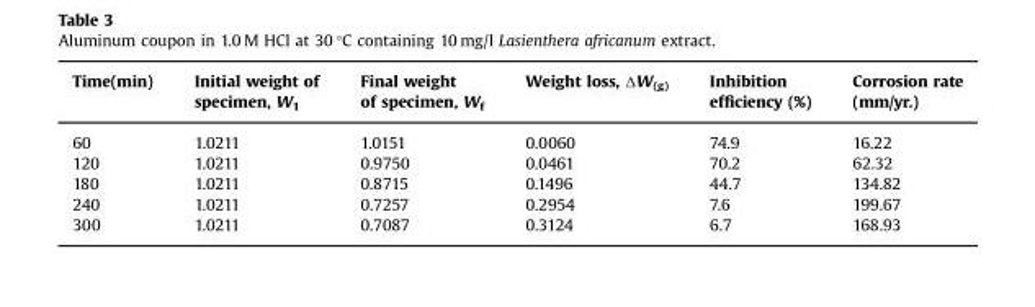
<table><thead><tr><td>Time(min)</td><td>Initial weight of specimen, W<sub>1</sub></td><td>Final weight of specimen, W<sub>f</sub></td><td>Weight loss, ΔW(g)</td><td>Inhibition efficiency (%)</td><td>Corrosion rate (mm/yr.)</td></tr></thead><tbody><tr><td>60</td><td>1.0211</td><td>1.0151</td><td>0.0060</td><td>74.9</td><td>16.22</td></tr><tr><td>120</td><td>1.0211</td><td>0.9750</td><td>0.0461</td><td>70.2</td><td>62.32</td></tr><tr><td>180</td><td>1.0211</td><td>0.8715</td><td>0.1496</td><td>44.7</td><td>134.82</td></tr><tr><td>240</td><td>1.0211</td><td>0.7257</td><td>0.2954</td><td>7.6</td><td>199.67</td></tr><tr><td>300</td><td>1.0211</td><td>0.7087</td><td>0.3124</td><td>6.7</td><td>168.93</td></tr></tbody></table>